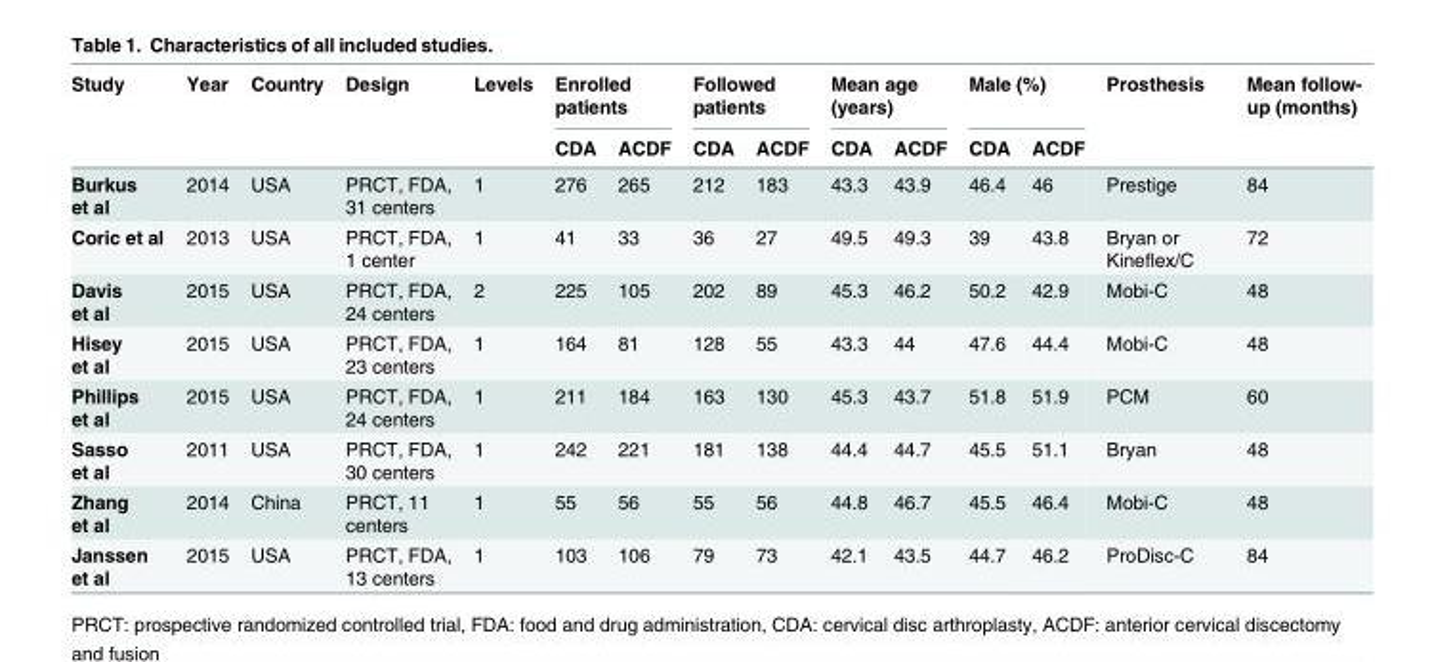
<table><thead><tr><td rowspan="2">Study</td><td rowspan="2">Year</td><td rowspan="2">Country</td><td rowspan="2">Design</td><td rowspan="2">Levels</td><td colspan="2">Enrolled patients</td><td colspan="2">Followed patients</td><td colspan="2">Mean age (years)</td><td colspan="2">Male (%)</td><td rowspan="2">Prosthesis</td><td rowspan="2">Mean follow- up (months)</td></tr><tr><td>CDA</td><td>ACDF</td><td>CDA</td><td>ACDF</td><td>CDA</td><td>ACDF</td><td>CDA</td><td>ACDF</td></tr></thead><tbody><tr><td>Burkus et al</td><td>2014</td><td>USA</td><td>PRCT, FDA, 31 centers</td><td>1</td><td>276</td><td>265</td><td>212</td><td>183</td><td>43.3</td><td>43.9</td><td>46.4</td><td>46</td><td>Prestige</td><td>84</td></tr><tr><td>Coric et al</td><td>2013</td><td>USA</td><td>PRCT, FDA, 1 center</td><td>1</td><td>41</td><td>33</td><td>36</td><td>27</td><td>49.5</td><td>49.3</td><td>39</td><td>43.8</td><td>Bryan or Kineflex/C</td><td>72</td></tr><tr><td>Davis et al</td><td>2015</td><td>USA</td><td>PRCT, FDA, 24 centers</td><td>2</td><td>225</td><td>105</td><td>202</td><td>89</td><td>45.3</td><td>46.2</td><td>50.2</td><td>42.9</td><td>Mobi-C</td><td>48</td></tr><tr><td>Hisey et al</td><td>2015</td><td>USA</td><td>PRCT, FDA, 23 centers</td><td>1</td><td>164</td><td>81</td><td>128</td><td>55</td><td>43.3</td><td>44</td><td>47.6</td><td>44.4</td><td>Mobi-C</td><td>48</td></tr><tr><td>Phillips et al</td><td>2015</td><td>USA</td><td>PRCT, FDA, 24 centers</td><td>1</td><td>211</td><td>184</td><td>163</td><td>130</td><td>45.3</td><td>43.7</td><td>51.8</td><td>51.9</td><td>PCM</td><td>60</td></tr><tr><td>Sasso et al</td><td>2011</td><td>USA</td><td>PRCT, FDA, 30 centers</td><td>1</td><td>242</td><td>221</td><td>181</td><td>138</td><td>44.4</td><td>44.7</td><td>45.5</td><td>51.1</td><td>Bryan</td><td>48</td></tr><tr><td>Zhang et al</td><td>2014</td><td>China</td><td>PRCT, 11 centers</td><td>1</td><td>55</td><td>56</td><td>55</td><td>56</td><td>44.8</td><td>46.7</td><td>45.5</td><td>46.4</td><td>Mobi-C</td><td>48</td></tr><tr><td>Janssen et al</td><td>2015</td><td>USA</td><td>PRCT, FDA, 13 centers</td><td>1</td><td>103</td><td>106</td><td>79</td><td>73</td><td>42.1</td><td>43.5</td><td>44.7</td><td>46.2</td><td>ProDisc-C</td><td>84</td></tr></tbody></table>